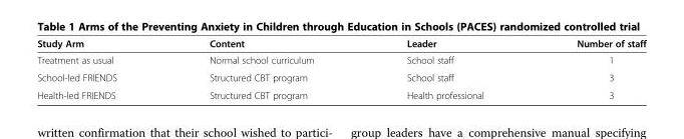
<table><thead><tr><td>Study Arm</td><td>Content</td><td>Leader</td><td>Number of staff</td></tr></thead><tbody><tr><td>Treatment as usual</td><td>Normal school curriculum</td><td>School staff</td><td>1</td></tr><tr><td>School-led FRIENDS</td><td>Structured CBT program</td><td>School staff</td><td>3</td></tr><tr><td>Health-led FRIENDS</td><td>Structured CBT program</td><td>Health professional</td><td>3</td></tr></tbody></table>